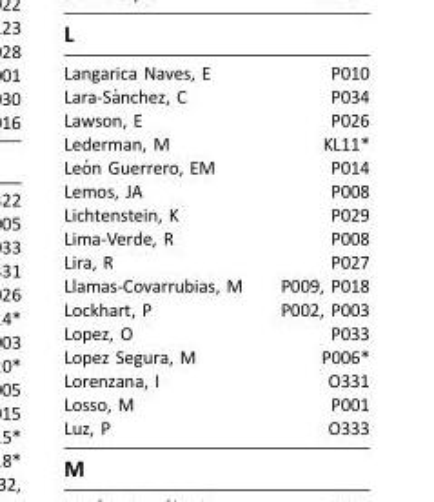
<table><tbody><tr><td>Langarica Naves, E</td><td>P010</td></tr><tr><td>Lara-Sa´nchez, C</td><td>P034</td></tr><tr><td>Lawson, E</td><td>P026</td></tr><tr><td>Lederman, M</td><td>KL11*</td></tr><tr><td>Leo´n Guerrero, EM</td><td>P014</td></tr><tr><td>Lemos, JA</td><td>P008</td></tr><tr><td>Lichtenstein, K</td><td>P029</td></tr><tr><td>Lima-Verde, R</td><td>P008</td></tr><tr><td>Lira, R</td><td>P027</td></tr><tr><td>Llamas-Covarrubias, M</td><td>P009, P018</td></tr><tr><td>Lockhart, P</td><td>P002, P003</td></tr><tr><td>Lopez, O</td><td>P033</td></tr><tr><td>Lopez Segura, M</td><td>P006*</td></tr><tr><td>Lorenzana, I</td><td>O331</td></tr><tr><td>Losso, M</td><td>P001</td></tr><tr><td>Luz, P</td><td>O333</td></tr></tbody></table>